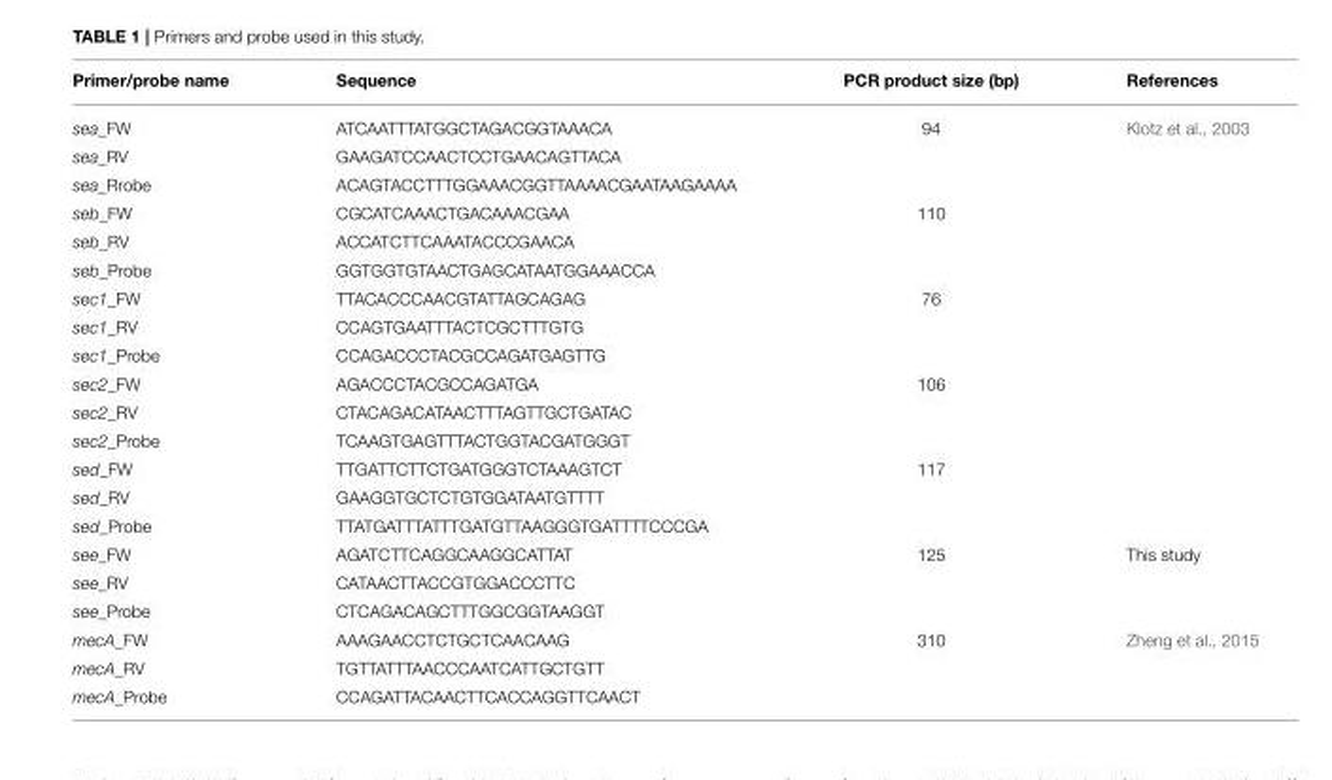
<table><thead><tr><td>Primer/probe name</td><td>Sequence</td><td>PCR product size (bp)</td><td>References</td></tr></thead><tbody><tr><td>sea_FW</td><td>ATCAATTTATGGCTAGACGGTAAACA</td><td>94</td><td>Klotz et al., 2003</td></tr><tr><td>sea_RV</td><td>GAAGATCCAACTCCTGAACAGTTACA</td><td></td><td></td></tr><tr><td>sea_Rrobe</td><td>ACAGTACCTTTGGAAACGGTTAAAACGAATAAGAAAA</td><td></td><td></td></tr><tr><td>seb_FW</td><td>CGCATCAAACTGACAAACGAA</td><td>110</td><td></td></tr><tr><td>seb_RV</td><td>ACCATCTTCAAATACCCGAACA</td><td></td><td></td></tr><tr><td>seb_Probe</td><td>GGTGGTGTAACTGAGCATAATGGAAACCA</td><td></td><td></td></tr><tr><td>sec1_FW</td><td>TTACACCCAACGTATTAGCAGAG</td><td>76</td><td></td></tr><tr><td>sec1_RV</td><td>CCAGTGAATTTACTCGCTTTGTG</td><td></td><td></td></tr><tr><td>sec1_Probe</td><td>CCAGACCCTACGCCAGATGAGTTG</td><td></td><td></td></tr><tr><td>sec2_FW</td><td>AGACCCTACGCCAGATGA</td><td>106</td><td></td></tr><tr><td>sec2_RV</td><td>CTACAGACATAACTTTAGTTGCTGATAC</td><td></td><td></td></tr><tr><td>sec2_Probe</td><td>TCAAGTGAGTTTACTGGTACGATGGGT</td><td></td><td></td></tr><tr><td>sed_FW</td><td>TTGATTCTTCTGATGGGTCTAAAGTCT</td><td>117</td><td></td></tr><tr><td>sed_RV</td><td>GAAGGTGCTCTGTGGATAATGTTTT</td><td></td><td></td></tr><tr><td>sed_Probe</td><td>TTATGATTTATTTGATGTTAAGGGTGATTTTCCCGA</td><td></td><td></td></tr><tr><td>see_FW</td><td>AGATCTTCAGGCAAGGCATTAT</td><td>125</td><td>This study</td></tr><tr><td>see_RV</td><td>CATAACTTACCGTGGACCCTTC</td><td></td><td></td></tr><tr><td>see_Probe</td><td>CTCAGACAGCTTTGGCGGTAAGGT</td><td></td><td></td></tr><tr><td>mecA_FW</td><td>AAAGAACCTCTGCTCAACAAG</td><td>310</td><td>Zheng et al., 2015</td></tr><tr><td>mecA_RV</td><td>TGTTATTTAACCCAATCATTGCTGTT</td><td></td><td></td></tr><tr><td>mecA_Probe</td><td>CCAGATTACAACTTCACCAGGTTCAACT</td><td></td><td></td></tr></tbody></table>